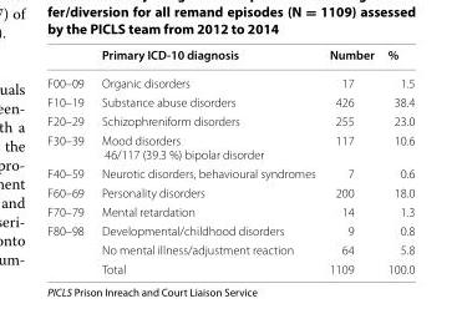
<table><thead><tr><td></td><td>Primary ICD‑10 diagnosis</td><td>Number</td><td>%</td></tr></thead><tbody><tr><td>F00–09</td><td>Organic disorders</td><td>17</td><td>1.5</td></tr><tr><td>F10–19</td><td>Substance abuse disorders</td><td>426</td><td>38.4</td></tr><tr><td>F20–29</td><td>Schizophreniform disorders</td><td>255</td><td>23.0</td></tr><tr><td>F30–39</td><td>Mood disorders 46/117 (39.3 %) bipolar disorder</td><td>117</td><td>10.6</td></tr><tr><td>F40–59</td><td>Neurotic disorders, behavioural syndromes</td><td>7</td><td>0.6</td></tr><tr><td>F60–69</td><td>Personality disorders</td><td>200</td><td>18.0</td></tr><tr><td>F70–79</td><td>Mental retardation</td><td>14</td><td>1.3</td></tr><tr><td rowspan="3">F80–98</td><td>Developmental/childhood disorders</td><td>9</td><td>0.8</td></tr><tr><td>No mental illness/adjustment reaction</td><td>64</td><td>5.8</td></tr><tr><td>Total</td><td>1109</td><td>100.0</td></tr></tbody></table>